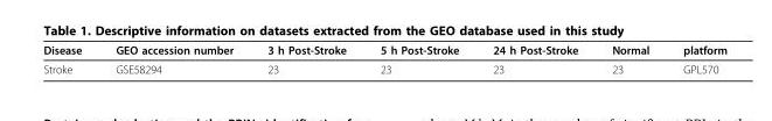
<table><thead><tr><td>Disease</td><td>GEO accession number</td><td>3 h Post-Stroke</td><td>5 h Post-Stroke</td><td>24 h Post-Stroke</td><td>Normal</td><td>platform</td></tr></thead><tbody><tr><td>Stroke</td><td>GSE58294</td><td>23</td><td>23</td><td>23</td><td>23</td><td>GPL570</td></tr></tbody></table>